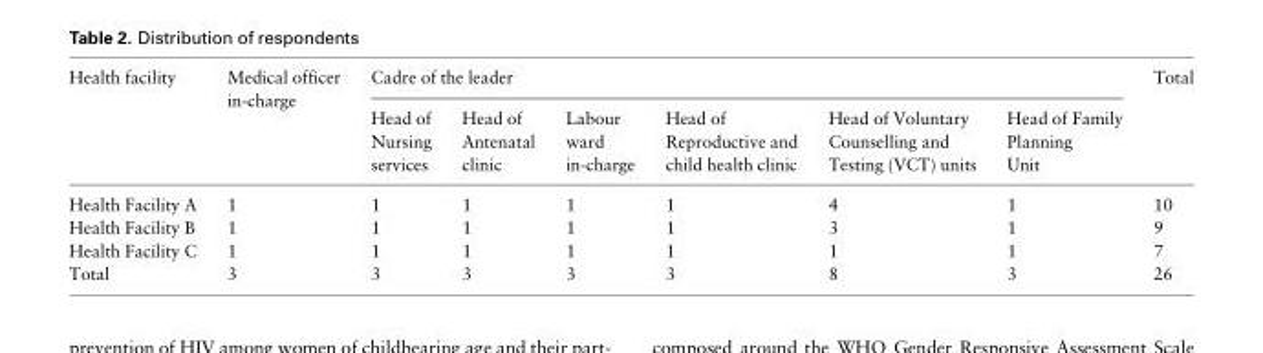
<table><thead><tr><td rowspan="2">Health facility</td><td rowspan="2">Medical officer in-charge</td><td colspan="6">Cadre of the leader</td><td rowspan="2">Total</td></tr><tr><td>Head of Nursing services</td><td>Head of Antenatal clinic</td><td>Labour ward in-charge</td><td>Head of Reproductive and child health clinic</td><td>Head of Voluntary Counselling and Testing (VCT) units</td><td>Head of Family Planning Unit</td></tr></thead><tbody><tr><td>Health Facility A</td><td>1</td><td>1</td><td>1</td><td>1</td><td>1</td><td>4</td><td>1</td><td>10</td></tr><tr><td>Health Facility B</td><td>1</td><td>1</td><td>1</td><td>1</td><td>1</td><td>3</td><td>1</td><td>9</td></tr><tr><td>Health Facility C</td><td>1</td><td>1</td><td>1</td><td>1</td><td>1</td><td>1</td><td>1</td><td>7</td></tr><tr><td>Total</td><td>3</td><td>3</td><td>3</td><td>3</td><td>3</td><td>8</td><td>3</td><td>26</td></tr></tbody></table>